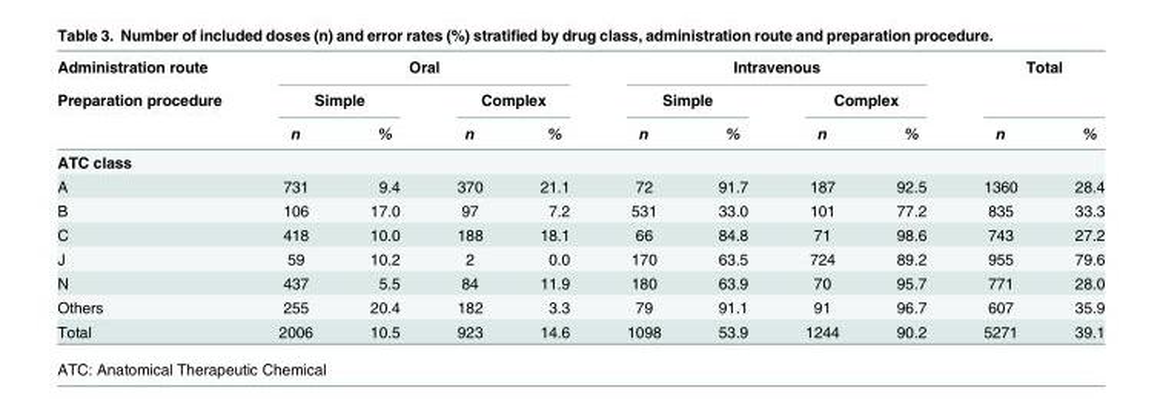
<table><thead><tr><td rowspan="3">Administration route Preparation procedure</td><td colspan="4">Oral</td><td colspan="4">Intravenous</td><td colspan="2">Total</td></tr><tr><td colspan="2">Simple</td><td colspan="2">Complex</td><td colspan="2">Simple</td><td colspan="2">Complex</td><td rowspan="2">n</td><td rowspan="2">%</td></tr><tr><td>n</td><td>%</td><td>n</td><td>%</td><td>n</td><td>%</td><td>n</td><td>%</td></tr></thead><tbody><tr><td colspan="11">ATC class</td></tr><tr><td>A</td><td>731</td><td>9.4</td><td>370</td><td>21.1</td><td>72</td><td>91.7</td><td>187</td><td>92.5</td><td>1360</td><td>28.4</td></tr><tr><td>B</td><td>106</td><td>17.0</td><td>97</td><td>7.2</td><td>531</td><td>33.0</td><td>101</td><td>77.2</td><td>835</td><td>33.3</td></tr><tr><td>C</td><td>418</td><td>10.0</td><td>188</td><td>18.1</td><td>66</td><td>84.8</td><td>71</td><td>98.6</td><td>743</td><td>27.2</td></tr><tr><td>J</td><td>59</td><td>10.2</td><td>2</td><td>0.0</td><td>170</td><td>63.5</td><td>724</td><td>89.2</td><td>955</td><td>79.6</td></tr><tr><td>N</td><td>437</td><td>5.5</td><td>84</td><td>11.9</td><td>180</td><td>63.9</td><td>70</td><td>95.7</td><td>771</td><td>28.0</td></tr><tr><td>Others</td><td>255</td><td>20.4</td><td>182</td><td>3.3</td><td>79</td><td>91.1</td><td>91</td><td>96.7</td><td>607</td><td>35.9</td></tr><tr><td>Total</td><td>2006</td><td>10.5</td><td>923</td><td>14.6</td><td>1098</td><td>53.9</td><td>1244</td><td>90.2</td><td>5271</td><td>39.1</td></tr></tbody></table>